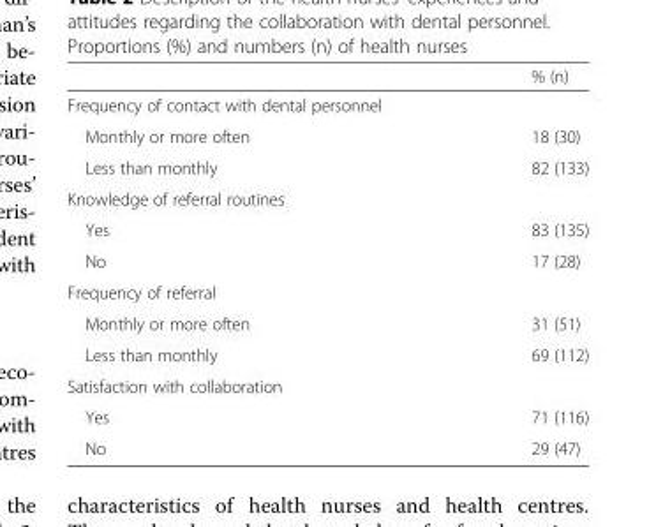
<table><thead><tr><td></td><td>% (n)</td></tr></thead><tbody><tr><td colspan="2">Frequency of contact with dental personnel</td></tr><tr><td>Monthly or more often</td><td>18 (30)</td></tr><tr><td>Less than monthly</td><td>82 (133)</td></tr><tr><td colspan="2">Knowledge of referral routines</td></tr><tr><td>Yes</td><td>83 (135)</td></tr><tr><td>No</td><td>17 (28)</td></tr><tr><td colspan="2">Frequency of referral</td></tr><tr><td>Monthly or more often</td><td>31 (51)</td></tr><tr><td>Less than monthly</td><td>69 (112)</td></tr><tr><td colspan="2">Satisfaction with collaboration</td></tr><tr><td>Yes</td><td>71 (116)</td></tr><tr><td>No</td><td>29 (47)</td></tr></tbody></table>